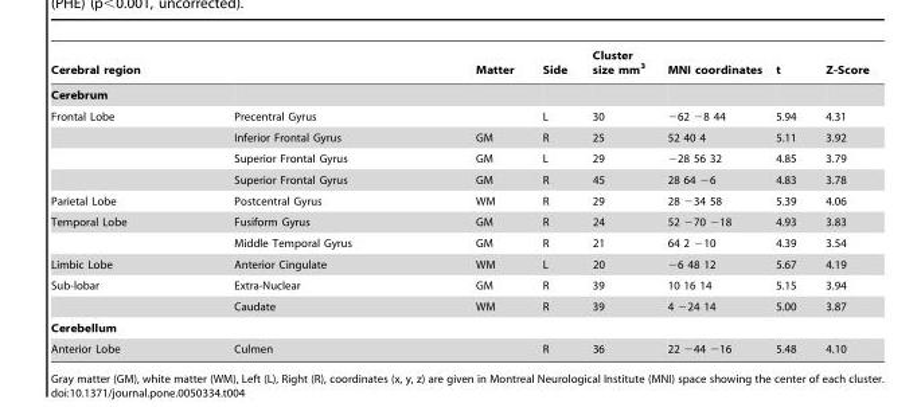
<table><thead><tr><td>Cerebral region</td><td></td><td>Matter</td><td>Side</td><td>Cluster size mm<sup>3</sup></td><td>MNI coordinates</td><td>t</td><td>Z-Score</td></tr></thead><tbody><tr><td colspan="8">Cerebrum</td></tr><tr><td rowspan="4">Frontal Lobe</td><td>Precentral Gyrus</td><td></td><td>L</td><td>30</td><td>−62 −8 44</td><td>5.94</td><td>4.31</td></tr><tr><td>Inferior Frontal Gyrus</td><td>GM</td><td>R</td><td>25</td><td>52 40 4</td><td>5.11</td><td>3.92</td></tr><tr><td>Superior Frontal Gyrus</td><td>GM</td><td>L</td><td>29</td><td>−28 56 32</td><td>4.85</td><td>3.79</td></tr><tr><td>Superior Frontal Gyrus</td><td>GM</td><td>R</td><td>45</td><td>28 64 −6</td><td>4.83</td><td>3.78</td></tr><tr><td>Parietal Lobe</td><td>Postcentral Gyrus</td><td>WM</td><td>R</td><td>29</td><td>28 −34 58</td><td>5.39</td><td>4.06</td></tr><tr><td rowspan="2">Temporal Lobe</td><td>Fusiform Gyrus</td><td>GM</td><td>R</td><td>24</td><td>52 −70 −18</td><td>4.93</td><td>3.83</td></tr><tr><td>Middle Temporal Gyrus</td><td>GM</td><td>R</td><td>21</td><td>64 2 −10</td><td>4.39</td><td>3.54</td></tr><tr><td>Limbic Lobe</td><td>Anterior Cingulate</td><td>WM</td><td>L</td><td>20</td><td>−6 48 12</td><td>5.67</td><td>4.19</td></tr><tr><td rowspan="2">Sub-lobar</td><td>Extra-Nuclear</td><td>GM</td><td>R</td><td>39</td><td>10 16 14</td><td>5.15</td><td>3.94</td></tr><tr><td>Caudate</td><td>WM</td><td>R</td><td>39</td><td>4 −24 14</td><td>5.00</td><td>3.87</td></tr><tr><td colspan="8">Cerebellum</td></tr><tr><td>Anterior Lobe</td><td>Culmen</td><td></td><td>R</td><td>36</td><td>22 −44 −16</td><td>5.48</td><td>4.10</td></tr></tbody></table>